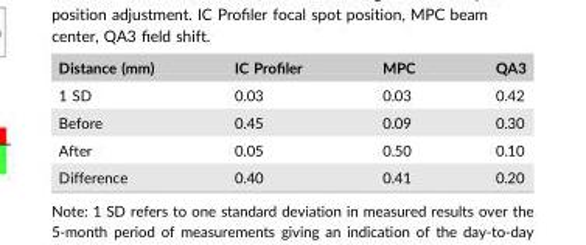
<table><thead><tr><td>Distance (mm)</td><td>IC Profiler</td><td>MPC</td><td>QA3</td></tr></thead><tbody><tr><td>1 SD</td><td>0.03</td><td>0.03</td><td>0.42</td></tr><tr><td>Before</td><td>0.45</td><td>0.09</td><td>0.30</td></tr><tr><td>After</td><td>0.05</td><td>0.50</td><td>0.10</td></tr><tr><td>Difference</td><td>0.40</td><td>0.41</td><td>0.20</td></tr></tbody></table>